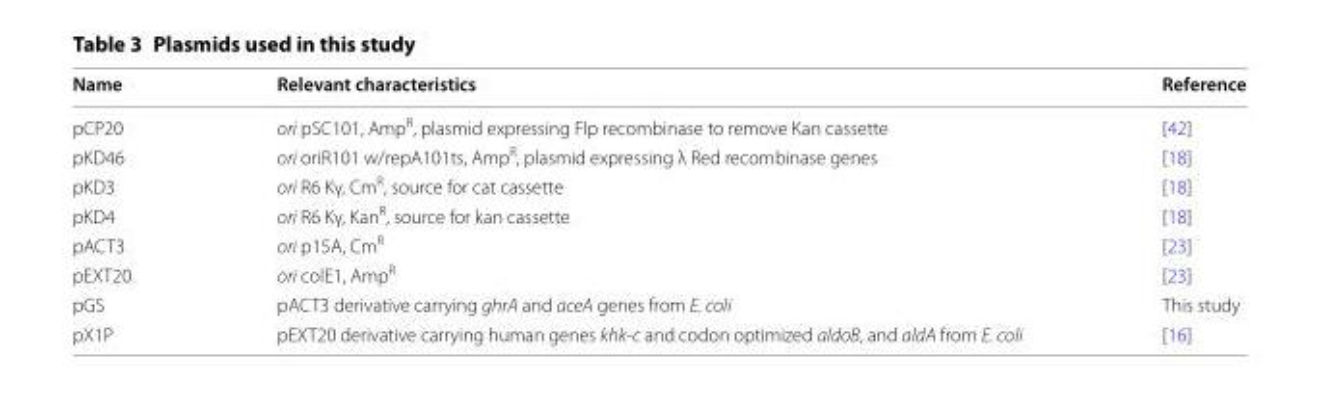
<table><thead><tr><td>Name</td><td>Relevant characteristics</td><td>Reference</td></tr></thead><tbody><tr><td>pCP20</td><td>ori pSC101, Amp<sup>R</sup>, plasmid expressing Flp recombinase to remove Kan cassette</td><td>[42]</td></tr><tr><td>pKD46</td><td>ori oriR101 w/repA101ts, Amp<sup>R</sup>, plasmid expressing λ Red recombinase genes</td><td>[18]</td></tr><tr><td>pKD3</td><td>ori R6 Kγ, Cm<sup>R</sup>, source for cat cassette</td><td>[18]</td></tr><tr><td>pKD4</td><td>ori R6 Kγ, Kan<sup>R</sup>, source for kan cassette</td><td>[18]</td></tr><tr><td>pACT3</td><td>ori p15A, Cm<sup>R</sup></td><td>[23]</td></tr><tr><td>pEXT20</td><td>ori colE1, Amp<sup>R</sup></td><td>[23]</td></tr><tr><td>pGS</td><td>pACT3 derivative carrying ghrA and aceA genes from E. coli</td><td>This study</td></tr><tr><td>pX1P</td><td>pEXT20 derivative carrying human genes khk-c and codon optimized aldoB, and aldA from E. coli</td><td>[16]</td></tr></tbody></table>